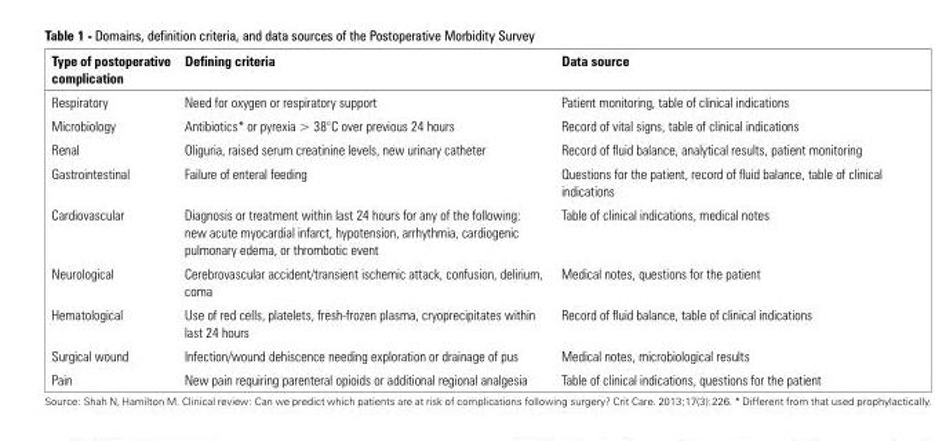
<table><thead><tr><td>Type of postoperative complication</td><td>Defining criteria</td><td>Data source</td></tr></thead><tbody><tr><td>Respiratory</td><td>Need for oxygen or respiratory support</td><td>Patient monitoring, table of clinical indications</td></tr><tr><td>Microbiology</td><td>Antibiotics* or pyrexia &gt; 38°C over previous 24 hours</td><td>Record of vital signs, table of clinical indications</td></tr><tr><td>Renal</td><td>Oliguria, raised serum creatinine levels, new urinary catheter</td><td>Record of fluid balance, analytical results, patient monitoring</td></tr><tr><td>Gastrointestinal</td><td>Failure of enteral feeding</td><td>Questions for the patient, record of fluid balance, table of clinical indications</td></tr><tr><td>Cardiovascular</td><td>Diagnosis or treatment within last 24 hours for any of the following: new acute myocardial infarct, hypotension, arrhythmia, cardiogenic pulmonary edema, or thrombotic event</td><td>Table of clinical indications, medical notes</td></tr><tr><td>Neurological</td><td>Cerebrovascular accident/transient ischemic attack, confusion, delirium, coma</td><td>Medical notes, questions for the patient</td></tr><tr><td>Hematological</td><td>Use of red cells, platelets, fresh-frozen plasma, cryoprecipitates within last 24 hours</td><td>Record of fluid balance, table of clinical indications</td></tr><tr><td>Surgical wound</td><td>Infection/wound dehiscence needing exploration or drainage of pus</td><td>Medical notes, microbiological results</td></tr><tr><td>Pain</td><td>New pain requiring parenteral opioids or additional regional analgesia</td><td>Table of clinical indications, questions for the patient</td></tr></tbody></table>